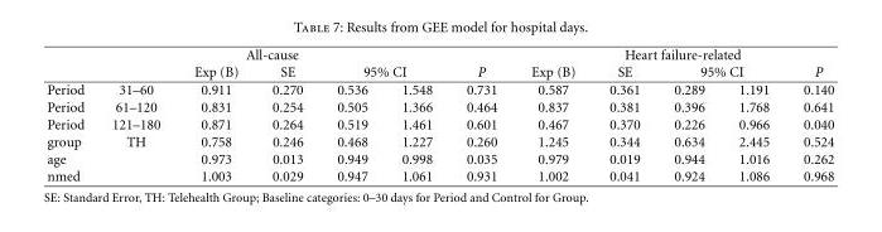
<table><tbody><tr><td colspan="7">All-cause</td><td colspan="5">Heart failure-related</td></tr><tr><td></td><td></td><td>Exp (B)</td><td>SE</td><td colspan="2">95% CI</td><td>P</td><td>Exp (B)</td><td>SE</td><td colspan="2">95% CI</td><td>P</td></tr><tr><td>Period</td><td>31–60</td><td>0.911</td><td>0.270</td><td>0.536</td><td>1.548</td><td>0.731</td><td>0.587</td><td>0.361</td><td>0.289</td><td>1.191</td><td>0.140</td></tr><tr><td>Period</td><td>61–120</td><td>0.831</td><td>0.254</td><td>0.505</td><td>1.366</td><td>0.464</td><td>0.837</td><td>0.381</td><td>0.396</td><td>1.768</td><td>0.641</td></tr><tr><td>Period</td><td>121–180</td><td>0.871</td><td>0.264</td><td>0.519</td><td>1.461</td><td>0.601</td><td>0.467</td><td>0.370</td><td>0.226</td><td>0.966</td><td>0.040</td></tr><tr><td>group</td><td>TH</td><td>0.758</td><td>0.246</td><td>0.468</td><td>1.227</td><td>0.260</td><td>1.245</td><td>0.344</td><td>0.634</td><td>2.445</td><td>0.524</td></tr><tr><td>age</td><td></td><td>0.973</td><td>0.013</td><td>0.949</td><td>0.998</td><td>0.035</td><td>0.979</td><td>0.019</td><td>0.944</td><td>1.016</td><td>0.262</td></tr><tr><td>nmed</td><td></td><td>1.003</td><td>0.029</td><td>0.947</td><td>1.061</td><td>0.931</td><td>1.002</td><td>0.041</td><td>0.924</td><td>1.086</td><td>0.968</td></tr></tbody></table>